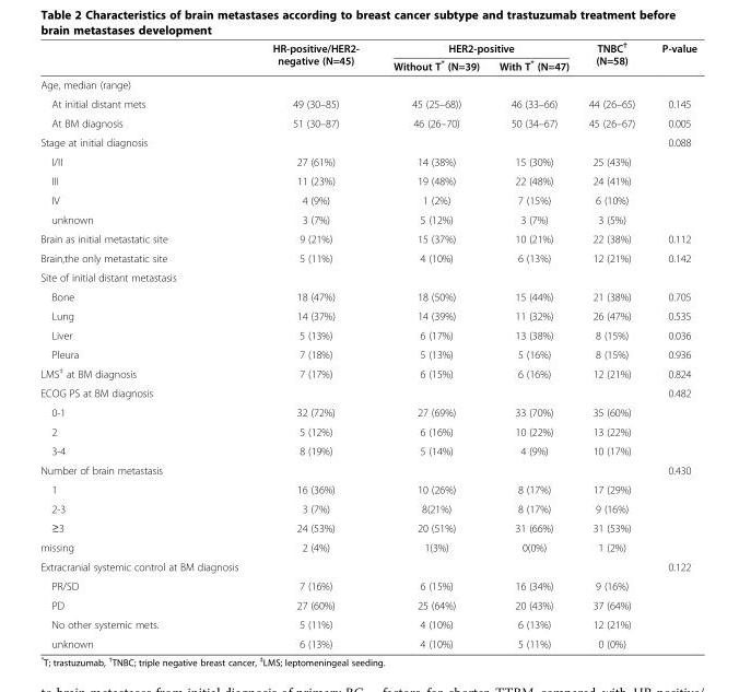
<table><thead><tr><td rowspan="2"></td><td rowspan="2">HR-positive/HER2- negative (N=45)</td><td colspan="2">HER2-positive</td><td rowspan="2">TNBC<sup>†</sup> (N=58)</td><td rowspan="2">P-value</td></tr><tr><td>Without T* (N=39)</td><td>With T* (N=47)</td></tr></thead><tbody><tr><td colspan="6">Age, median (range)</td></tr><tr><td>At initial distant mets</td><td>49 (30–85)</td><td>45 (25–68))</td><td>46 (33–66)</td><td>44 (26–65)</td><td>0.145</td></tr><tr><td>At BM diagnosis</td><td>51 (30–87)</td><td>46 (26–70)</td><td>50 (34–67)</td><td>45 (26–67)</td><td>0.005</td></tr><tr><td>Stage at initial diagnosis</td><td></td><td></td><td></td><td></td><td>0.088</td></tr><tr><td>I/II</td><td>27 (61%)</td><td>14 (38%)</td><td>15 (30%)</td><td>25 (43%)</td><td></td></tr><tr><td>III</td><td>11 (23%)</td><td>19 (48%)</td><td>22 (48%)</td><td>24 (41%)</td><td></td></tr><tr><td>IV</td><td>4 (9%)</td><td>1 (2%)</td><td>7 (15%)</td><td>6 (10%)</td><td></td></tr><tr><td>unknown</td><td>3 (7%)</td><td>5 (12%)</td><td>3 (7%)</td><td>3 (5%)</td><td></td></tr><tr><td>Brain as initial metastatic site</td><td>9 (21%)</td><td>15 (37%)</td><td>10 (21%)</td><td>22 (38%)</td><td>0.112</td></tr><tr><td>Brain,the only metastatic site</td><td>5 (11%)</td><td>4 (10%)</td><td>6 (13%)</td><td>12 (21%)</td><td>0.142</td></tr><tr><td colspan="6">Site of initial distant metastasis</td></tr><tr><td>Bone</td><td>18 (47%)</td><td>18 (50%)</td><td>15 (44%)</td><td>21 (38%)</td><td>0.705</td></tr><tr><td>Lung</td><td>14 (37%)</td><td>14 (39%)</td><td>11 (32%)</td><td>26 (47%)</td><td>0.535</td></tr><tr><td>Liver</td><td>5 (13%)</td><td>6 (17%)</td><td>13 (38%)</td><td>8 (15%)</td><td>0.036</td></tr><tr><td>Pleura</td><td>7 (18%)</td><td>5 (13%)</td><td>5 (16%)</td><td>8 (15%)</td><td>0.936</td></tr><tr><td>LMS<sup>‡</sup> at BM diagnosis</td><td>7 (17%)</td><td>6 (15%)</td><td>6 (16%)</td><td>12 (21%)</td><td>0.824</td></tr><tr><td colspan="2">ECOG PS at BM diagnosis</td><td></td><td></td><td></td><td>0.482</td></tr><tr><td>0-1</td><td>32 (72%)</td><td>27 (69%)</td><td>33 (70%)</td><td>35 (60%)</td><td></td></tr><tr><td>2</td><td>5 (12%)</td><td>6 (16%)</td><td>10 (22%)</td><td>13 (22%)</td><td></td></tr><tr><td>3-4</td><td>8 (19%)</td><td>5 (14%)</td><td>4 (9%)</td><td>10 (17%)</td><td></td></tr><tr><td colspan="2">Number of brain metastasis</td><td></td><td></td><td></td><td>0.430</td></tr><tr><td>1</td><td>16 (36%)</td><td>10 (26%)</td><td>8 (17%)</td><td>17 (29%)</td><td></td></tr><tr><td>2-3</td><td>3 (7%)</td><td>8(21%)</td><td>8 (17%)</td><td>9 (16%)</td><td></td></tr><tr><td>≥3</td><td>24 (53%)</td><td>20 (51%)</td><td>31 (66%)</td><td>31 (53%)</td><td></td></tr><tr><td>missing</td><td>2 (4%)</td><td>1(3%)</td><td>0(0%)</td><td>1 (2%)</td><td></td></tr><tr><td>Extracranial systemic control at BM diagnosis</td><td></td><td></td><td></td><td></td><td>0.122</td></tr><tr><td>PR/SD</td><td>7 (16%)</td><td>6 (15%)</td><td>16 (34%)</td><td>9 (16%)</td><td></td></tr><tr><td>PD</td><td>27 (60%)</td><td>25 (64%)</td><td>20 (43%)</td><td>37 (64%)</td><td></td></tr><tr><td>No other systemic mets.</td><td>5 (11%)</td><td>4 (10%)</td><td>6 (13%)</td><td>12 (21%)</td><td></td></tr><tr><td>unknown</td><td>6 (13%)</td><td>4 (10%)</td><td>5 (11%)</td><td>0 (0%)</td><td></td></tr></tbody></table>